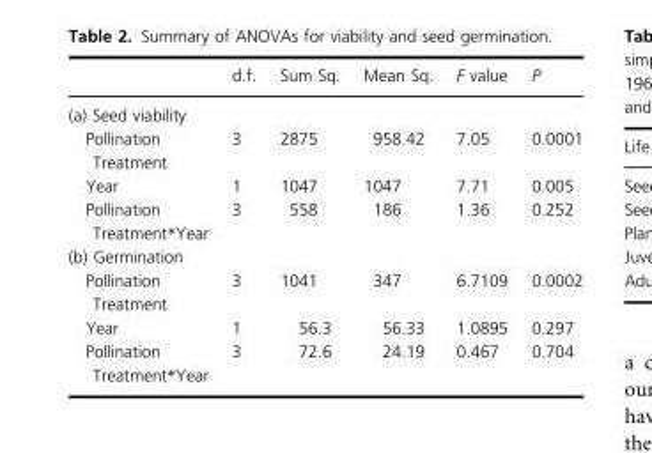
<table><thead><tr><td></td><td>d.f.</td><td>Sum Sq.</td><td>Mean Sq.</td><td>F value</td><td>P</td></tr></thead><tbody><tr><td colspan="6">(a) Seed viability</td></tr><tr><td>Pollination Treatment</td><td>3</td><td>2875</td><td>958.42</td><td>7.05</td><td>0.0001</td></tr><tr><td>Year</td><td>1</td><td>1047</td><td>1047</td><td>7.71</td><td>0.005</td></tr><tr><td>Pollination Treatment*Year</td><td>3</td><td>558</td><td>186</td><td>1.36</td><td>0.252</td></tr><tr><td colspan="6">(b) Germination</td></tr><tr><td>Pollination Treatment</td><td>3</td><td>1041</td><td>347</td><td>6.7109</td><td>0.0002</td></tr><tr><td>Year</td><td>1</td><td>56.3</td><td>56.33</td><td>1.0895</td><td>0.297</td></tr><tr><td>Pollination Treatment*Year</td><td>3</td><td>72.6</td><td>24.19</td><td>0.467</td><td>0.704</td></tr></tbody></table>